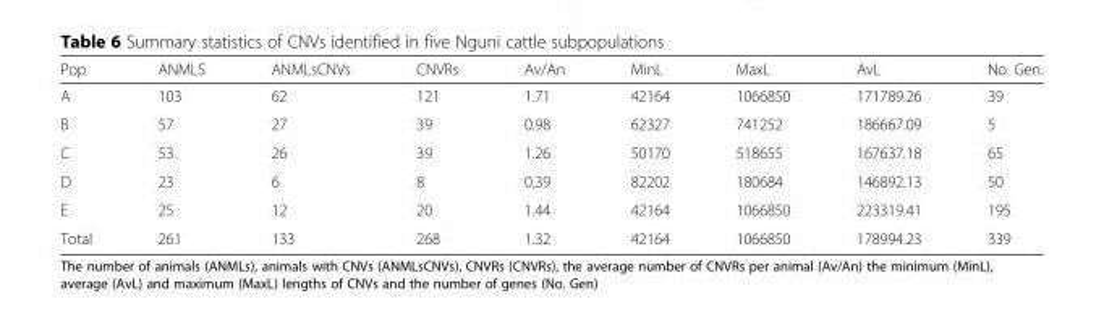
<table><thead><tr><td>Pop</td><td>ANMLS</td><td>ANMLsCNVs</td><td>CNVRs</td><td>Av/An</td><td>MinL</td><td>MaxL</td><td>AvL</td><td>No. Gen.</td></tr></thead><tbody><tr><td>A</td><td>103</td><td>62</td><td>121</td><td>1.71</td><td>42164</td><td>1066850</td><td>171789.26</td><td>39</td></tr><tr><td>B</td><td>57</td><td>27</td><td>39</td><td>0.98</td><td>62327</td><td>741252</td><td>186667.09</td><td>5</td></tr><tr><td>C</td><td>53</td><td>26</td><td>39</td><td>1.26</td><td>50170</td><td>518655</td><td>167637.18</td><td>65</td></tr><tr><td>D</td><td>23</td><td>6</td><td>8</td><td>0.39</td><td>82202</td><td>180684</td><td>146892.13</td><td>50</td></tr><tr><td>E</td><td>25</td><td>12</td><td>20</td><td>1.44</td><td>42164</td><td>1066850</td><td>223319.41</td><td>195</td></tr><tr><td>Total</td><td>261</td><td>133</td><td>268</td><td>1.32</td><td>42164</td><td>1066850</td><td>178994.23</td><td>339</td></tr></tbody></table>